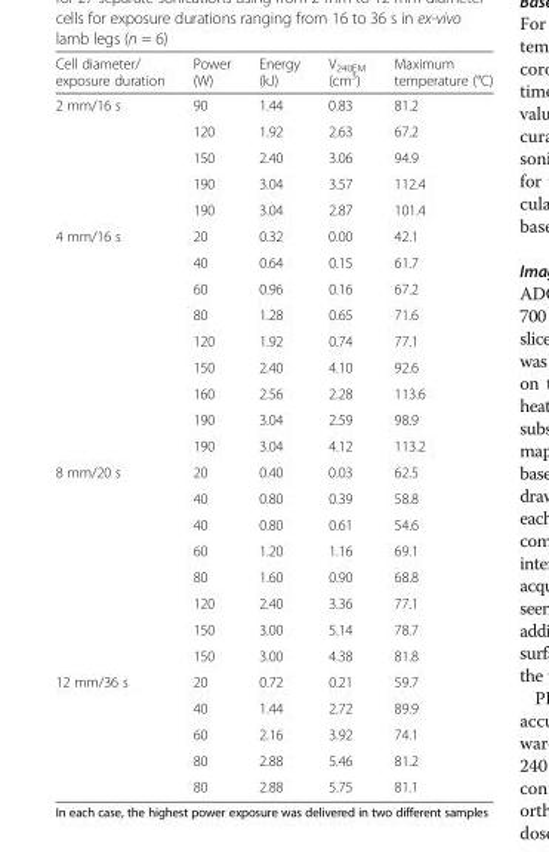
<table><thead><tr><td>Cell diameter/ exposure duration</td><td>Power (W)</td><td>Energy (kJ)</td><td>V<sub>240EM</sub> (cm<sup>3</sup>)</td><td>Maximum temperature (°C)</td></tr></thead><tbody><tr><td rowspan="5">2 mm/16 s</td><td>90</td><td>1.44</td><td>0.83</td><td>81.2</td></tr><tr><td>120</td><td>1.92</td><td>2.63</td><td>67.2</td></tr><tr><td>150</td><td>2.40</td><td>3.06</td><td>94.9</td></tr><tr><td>190</td><td>3.04</td><td>3.57</td><td>112.4</td></tr><tr><td>190</td><td>3.04</td><td>2.87</td><td>101.4</td></tr><tr><td rowspan="9">4 mm/16 s</td><td>20</td><td>0.32</td><td>0.00</td><td>42.1</td></tr><tr><td>40</td><td>0.64</td><td>0.15</td><td>61.7</td></tr><tr><td>60</td><td>0.96</td><td>0.16</td><td>67.2</td></tr><tr><td>80</td><td>1.28</td><td>0.65</td><td>71.6</td></tr><tr><td>120</td><td>1.92</td><td>0.74</td><td>77.1</td></tr><tr><td>150</td><td>2.40</td><td>4.10</td><td>92.6</td></tr><tr><td>160</td><td>2.56</td><td>2.28</td><td>113.6</td></tr><tr><td>190</td><td>3.04</td><td>2.59</td><td>98.9</td></tr><tr><td>190</td><td>3.04</td><td>4.12</td><td>113.2</td></tr><tr><td rowspan="8">8 mm/20 s</td><td>20</td><td>0.40</td><td>0.03</td><td>62.5</td></tr><tr><td>40</td><td>0.80</td><td>0.39</td><td>58.8</td></tr><tr><td>40</td><td>0.80</td><td>0.61</td><td>54.6</td></tr><tr><td>60</td><td>1.20</td><td>1.16</td><td>69.1</td></tr><tr><td>80</td><td>1.60</td><td>0.90</td><td>68.8</td></tr><tr><td>120</td><td>2.40</td><td>3.36</td><td>77.1</td></tr><tr><td>150</td><td>3.00</td><td>5.14</td><td>78.7</td></tr><tr><td>150</td><td>3.00</td><td>4.38</td><td>81.8</td></tr><tr><td rowspan="5">12 mm/36 s</td><td>20</td><td>0.72</td><td>0.21</td><td>59.7</td></tr><tr><td>40</td><td>1.44</td><td>2.72</td><td>89.9</td></tr><tr><td>60</td><td>2.16</td><td>3.92</td><td>74.1</td></tr><tr><td>80</td><td>2.88</td><td>5.46</td><td>81.2</td></tr><tr><td>80</td><td>2.88</td><td>5.75</td><td>81.1</td></tr></tbody></table>